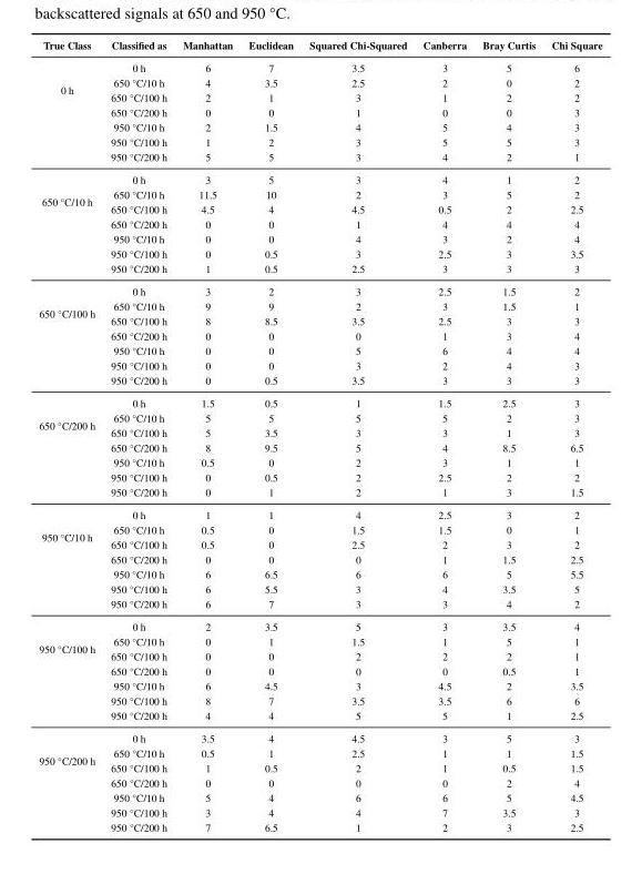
<table><thead><tr><td>True Class</td><td>Classified as</td><td>Manhattan</td><td>Euclidean</td><td>Squared Chi-Squared</td><td>Canberra</td><td>Bray Curtis</td><td>Chi Square</td></tr></thead><tbody><tr><td rowspan="7">0 h</td><td>0 h</td><td>6</td><td>7</td><td>3.5</td><td>3</td><td>5</td><td>6</td></tr><tr><td>650 °C/10 h</td><td>4</td><td>3.5</td><td>2.5</td><td>2</td><td>0</td><td>2</td></tr><tr><td>650 °C/100 h</td><td>2</td><td>1</td><td>3</td><td>1</td><td>2</td><td>2</td></tr><tr><td>650 °C/200 h</td><td>0</td><td>0</td><td>1</td><td>0</td><td>0</td><td>3</td></tr><tr><td>950 °C/10 h</td><td>2</td><td>1.5</td><td>4</td><td>5</td><td>4</td><td>3</td></tr><tr><td>950 °C/100 h</td><td>1</td><td>2</td><td>3</td><td>5</td><td>5</td><td>3</td></tr><tr><td>950 °C/200 h</td><td>5</td><td>5</td><td>3</td><td>4</td><td>2</td><td>1</td></tr><tr><td rowspan="7">650 °C/10 h</td><td>0 h</td><td>3</td><td>5</td><td>3</td><td>4</td><td>1</td><td>2</td></tr><tr><td>650 °C/10 h</td><td>11.5</td><td>10</td><td>2</td><td>3</td><td>5</td><td>2</td></tr><tr><td>650 °C/100 h</td><td>4.5</td><td>4</td><td>4.5</td><td>0.5</td><td>2</td><td>2.5</td></tr><tr><td>650 °C/200 h</td><td>0</td><td>0</td><td>1</td><td>4</td><td>4</td><td>4</td></tr><tr><td>950 °C/10 h</td><td>0</td><td>0</td><td>4</td><td>3</td><td>2</td><td>4</td></tr><tr><td>950 °C/100 h</td><td>0</td><td>0.5</td><td>3</td><td>2.5</td><td>3</td><td>3.5</td></tr><tr><td>950 °C/200 h</td><td>1</td><td>0.5</td><td>2.5</td><td>3</td><td>3</td><td>3</td></tr><tr><td rowspan="7">650 °C/100 h</td><td>0 h</td><td>3</td><td>2</td><td>3</td><td>2.5</td><td>1.5</td><td>2</td></tr><tr><td>650 °C/10 h</td><td>9</td><td>9</td><td>2</td><td>3</td><td>1.5</td><td>1</td></tr><tr><td>650 °C/100 h</td><td>8</td><td>8.5</td><td>3.5</td><td>2.5</td><td>3</td><td>3</td></tr><tr><td>650 °C/200 h</td><td>0</td><td>0</td><td>0</td><td>1</td><td>3</td><td>4</td></tr><tr><td>950 °C/10 h</td><td>0</td><td>0</td><td>5</td><td>6</td><td>4</td><td>4</td></tr><tr><td>950 °C/100 h</td><td>0</td><td>0</td><td>3</td><td>2</td><td>4</td><td>3</td></tr><tr><td>950 °C/200 h</td><td>0</td><td>0.5</td><td>3.5</td><td>3</td><td>3</td><td>3</td></tr><tr><td rowspan="7">650 °C/200 h</td><td>0 h</td><td>1.5</td><td>0.5</td><td>1</td><td>1.5</td><td>2.5</td><td>3</td></tr><tr><td>650 °C/10 h</td><td>5</td><td>5</td><td>5</td><td>5</td><td>2</td><td>3</td></tr><tr><td>650 °C/100 h</td><td>5</td><td>3.5</td><td>3</td><td>3</td><td>1</td><td>3</td></tr><tr><td>650 °C/200 h</td><td>8</td><td>9.5</td><td>5</td><td>4</td><td>8.5</td><td>6.5</td></tr><tr><td>950 °C/10 h</td><td>0.5</td><td>0</td><td>2</td><td>3</td><td>1</td><td>1</td></tr><tr><td>950 °C/100 h</td><td>0</td><td>0.5</td><td>2</td><td>2.5</td><td>2</td><td>2</td></tr><tr><td>950 °C/200 h</td><td>0</td><td>1</td><td>2</td><td>1</td><td>3</td><td>1.5</td></tr><tr><td rowspan="7">950 °C/10 h</td><td>0 h</td><td>1</td><td>1</td><td>4</td><td>2.5</td><td>3</td><td>2</td></tr><tr><td>650 °C/10 h</td><td>0.5</td><td>0</td><td>1.5</td><td>1.5</td><td>0</td><td>1</td></tr><tr><td>650 °C/100 h</td><td>0.5</td><td>0</td><td>2.5</td><td>2</td><td>3</td><td>2</td></tr><tr><td>650 °C/200 h</td><td>0</td><td>0</td><td>0</td><td>1</td><td>1.5</td><td>2.5</td></tr><tr><td>950 °C/10 h</td><td>6</td><td>6.5</td><td>6</td><td>6</td><td>5</td><td>5.5</td></tr><tr><td>950 °C/100 h</td><td>6</td><td>5.5</td><td>3</td><td>4</td><td>3.5</td><td>5</td></tr><tr><td>950 °C/200 h</td><td>6</td><td>7</td><td>3</td><td>3</td><td>4</td><td>2</td></tr><tr><td rowspan="7">950 °C/100 h</td><td>0 h</td><td>2</td><td>3.5</td><td>5</td><td>3</td><td>3.5</td><td>4</td></tr><tr><td>650 °C/10 h</td><td>0</td><td>1</td><td>1.5</td><td>1</td><td>5</td><td>1</td></tr><tr><td>650 °C/100 h</td><td>0</td><td>0</td><td>2</td><td>2</td><td>2</td><td>1</td></tr><tr><td>650 °C/200 h</td><td>0</td><td>0</td><td>0</td><td>0</td><td>0.5</td><td>1</td></tr><tr><td>950 °C/10 h</td><td>6</td><td>4.5</td><td>3</td><td>4.5</td><td>2</td><td>3.5</td></tr><tr><td>950 °C/100 h</td><td>8</td><td>7</td><td>3.5</td><td>3.5</td><td>6</td><td>6</td></tr><tr><td>950 °C/200 h</td><td>4</td><td>4</td><td>5</td><td>5</td><td>1</td><td>2.5</td></tr><tr><td rowspan="7">950 °C/200 h</td><td>0 h</td><td>3.5</td><td>4</td><td>4.5</td><td>3</td><td>5</td><td>3</td></tr><tr><td>650 °C/10 h</td><td>0.5</td><td>1</td><td>2.5</td><td>1</td><td>1</td><td>1.5</td></tr><tr><td>650 °C/100 h</td><td>1</td><td>0.5</td><td>2</td><td>1</td><td>0.5</td><td>1.5</td></tr><tr><td>650 °C/200 h</td><td>0</td><td>0</td><td>0</td><td>0</td><td>2</td><td>4</td></tr><tr><td>950 °C/10 h</td><td>5</td><td>4</td><td>6</td><td>6</td><td>5</td><td>4.5</td></tr><tr><td>950 °C/100 h</td><td>3</td><td>4</td><td>4</td><td>7</td><td>3.5</td><td>3</td></tr><tr><td>950 °C/200 h</td><td>7</td><td>6.5</td><td>1</td><td>2</td><td>3</td><td>2.5</td></tr></tbody></table>